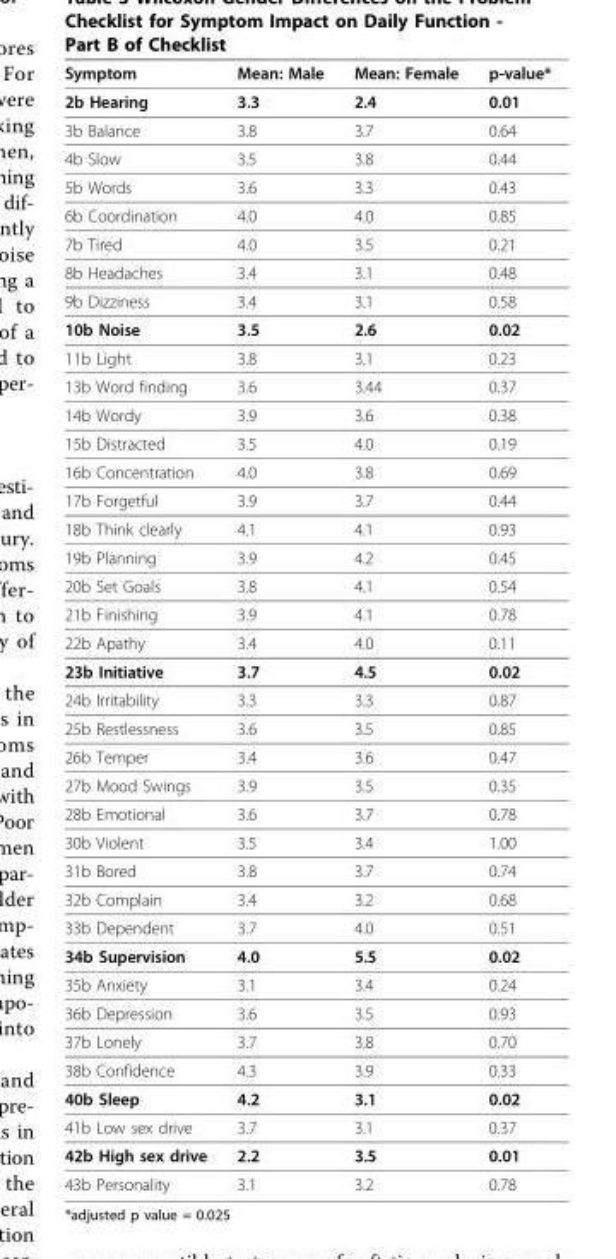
<table><thead><tr><td>Symptom</td><td>Mean: Male</td><td>Mean: Female</td><td>p-value*</td></tr></thead><tbody><tr><td>2b Hearing</td><td>3.3</td><td>2.4</td><td>0.01</td></tr><tr><td>3b Balance</td><td>3.8</td><td>3.7</td><td>0.64</td></tr><tr><td>4b Slow</td><td>3.5</td><td>3.8</td><td>0.44</td></tr><tr><td>5b Words</td><td>3.6</td><td>3.3</td><td>0.43</td></tr><tr><td>6b Coordination</td><td>4.0</td><td>4.0</td><td>0.85</td></tr><tr><td>7b Tired</td><td>4.0</td><td>3.5</td><td>0.21</td></tr><tr><td>8b Headaches</td><td>3.4</td><td>3.1</td><td>0.48</td></tr><tr><td>9b Dizziness</td><td>3.4</td><td>3.1</td><td>0.58</td></tr><tr><td>10b Noise</td><td>3.5</td><td>2.6</td><td>0.02</td></tr><tr><td>11b Light</td><td>3.8</td><td>3.1</td><td>0.23</td></tr><tr><td>13b Word finding</td><td>3.6</td><td>3.44</td><td>0.37</td></tr><tr><td>14b Wordy</td><td>3.9</td><td>3.6</td><td>0.38</td></tr><tr><td>15b Distracted</td><td>3.5</td><td>4.0</td><td>0.19</td></tr><tr><td>16b Concentration</td><td>4.0</td><td>3.8</td><td>0.69</td></tr><tr><td>17b Forgetful</td><td>3.9</td><td>3.7</td><td>0.44</td></tr><tr><td>18b Think clearly</td><td>4.1</td><td>4.1</td><td>0.93</td></tr><tr><td>19b Planning</td><td>3.9</td><td>4.2</td><td>0.45</td></tr><tr><td>20b Set Goals</td><td>3.8</td><td>4.1</td><td>0.54</td></tr><tr><td>21b Finishing</td><td>3.9</td><td>4.1</td><td>0.78</td></tr><tr><td>22b Apathy</td><td>3.4</td><td>4.0</td><td>0.11</td></tr><tr><td>23b Initiative</td><td>3.7</td><td>4.5</td><td>0.02</td></tr><tr><td>24b Irritability</td><td>3.3</td><td>3.3</td><td>0.87</td></tr><tr><td>25b Restlessness</td><td>3.6</td><td>3.5</td><td>0.85</td></tr><tr><td>26b Temper</td><td>3.4</td><td>3.6</td><td>0.47</td></tr><tr><td>27b Mood Swings</td><td>3.9</td><td>3.5</td><td>0.35</td></tr><tr><td>28b Emotional</td><td>3.6</td><td>3.7</td><td>0.78</td></tr><tr><td>30b Violent</td><td>3.5</td><td>3.4</td><td>1.00</td></tr><tr><td>31b Bored</td><td>3.8</td><td>3.7</td><td>0.74</td></tr><tr><td>32b Complain</td><td>3.4</td><td>3.2</td><td>0.68</td></tr><tr><td>33b Dependent</td><td>3.7</td><td>4.0</td><td>0.51</td></tr><tr><td>34b Supervision</td><td>4.0</td><td>5.5</td><td>0.02</td></tr><tr><td>35b Anxiety</td><td>3.1</td><td>3.4</td><td>0.24</td></tr><tr><td>36b Depression</td><td>3.6</td><td>3.5</td><td>0.93</td></tr><tr><td>37b Lonely</td><td>3.7</td><td>3.8</td><td>0.70</td></tr><tr><td>38b Confidence</td><td>4.3</td><td>3.9</td><td>0.33</td></tr><tr><td>40b Sleep</td><td>4.2</td><td>3.1</td><td>0.02</td></tr><tr><td>41b Low sex drive</td><td>3.7</td><td>3.1</td><td>0.37</td></tr><tr><td>42b High sex drive</td><td>2.2</td><td>3.5</td><td>0.01</td></tr><tr><td>43b Personality</td><td>3.1</td><td>3.2</td><td>0.78</td></tr></tbody></table>